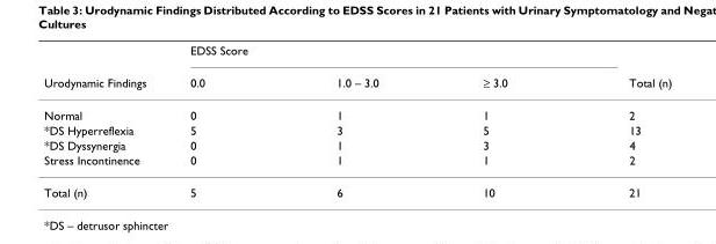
<table><thead><tr><td rowspan="2">Urodynamic Findings</td><td colspan="3">EDSS Score</td><td rowspan="2">Total (n)</td></tr><tr><td>0.0</td><td>1.0 – 3.0</td><td>≥ 3.0</td></tr></thead><tbody><tr><td>Normal</td><td>0</td><td>1</td><td>1</td><td>2</td></tr><tr><td>*DS Hyperreflexia</td><td>5</td><td>3</td><td>5</td><td>13</td></tr><tr><td>*DS Dyssynergia</td><td>0</td><td>1</td><td>3</td><td>4</td></tr><tr><td>Stress Incontinence</td><td>0</td><td>1</td><td>1</td><td>2</td></tr><tr><td>Total (n)</td><td>5</td><td>6</td><td>10</td><td>21</td></tr></tbody></table>